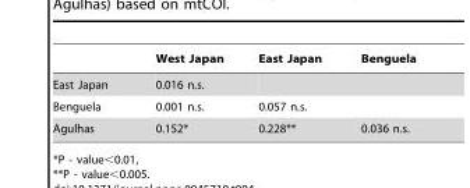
<table><thead><tr><td></td><td>West Japan</td><td>East Japan</td><td>Benguela</td></tr></thead><tbody><tr><td>East Japan</td><td>0.016 n.s.</td><td></td><td></td></tr><tr><td>Benguela</td><td>0.001 n.s.</td><td>0.057 n.s.</td><td></td></tr><tr><td>Agulhas</td><td>0.152*</td><td>0.228**</td><td>0.036 n.s.</td></tr></tbody></table>